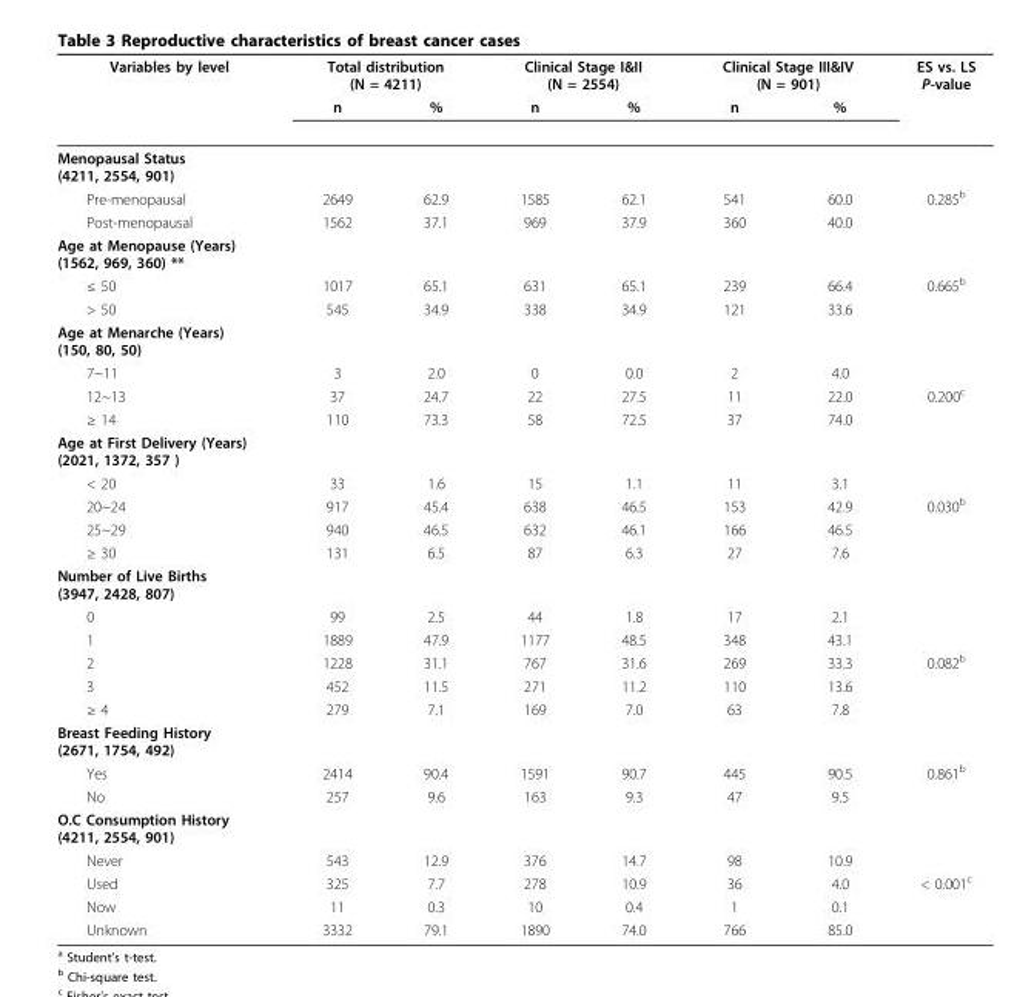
<table><thead><tr><td rowspan="2">Variables by level</td><td colspan="2">Total distribution (N = 4211)</td><td colspan="2">Clinical Stage I&amp;II (N = 2554)</td><td colspan="2">Clinical Stage III&amp;IV (N = 901)</td><td rowspan="2">ES vs. LS P-value</td></tr><tr><td>n</td><td>%</td><td>n</td><td>%</td><td>n</td><td>%</td></tr></thead><tbody><tr><td colspan="8">Menopausal Status (4211, 2554, 901)</td></tr><tr><td>Pre-menopausal</td><td>2649</td><td>62.9</td><td>1585</td><td>62.1</td><td>541</td><td>60.0</td><td>0.285<sup>b</sup></td></tr><tr><td>Post-menopausal</td><td>1562</td><td>37.1</td><td>969</td><td>37.9</td><td>360</td><td>40.0</td><td></td></tr><tr><td colspan="8">Age at Menopause (Years) (1562, 969, 360) **</td></tr><tr><td>≤ 50</td><td>1017</td><td>65.1</td><td>631</td><td>65.1</td><td>239</td><td>66.4</td><td>0.665<sup>b</sup></td></tr><tr><td>&gt; 50</td><td>545</td><td>34.9</td><td>338</td><td>34.9</td><td>121</td><td>33.6</td><td></td></tr><tr><td colspan="8">Age at Menarche (Years) (150, 80, 50)</td></tr><tr><td>7~11</td><td>3</td><td>2.0</td><td>0</td><td>0.0</td><td>2</td><td>4.0</td><td></td></tr><tr><td>12~13</td><td>37</td><td>24.7</td><td>22</td><td>27.5</td><td>11</td><td>22.0</td><td>0.200<sup>c</sup></td></tr><tr><td>≥ 14</td><td>110</td><td>73.3</td><td>58</td><td>72.5</td><td>37</td><td>74.0</td><td></td></tr><tr><td colspan="8">Age at First Delivery (Years) (2021, 1372, 357 )</td></tr><tr><td>&lt; 20</td><td>33</td><td>1.6</td><td>15</td><td>1.1</td><td>11</td><td>3.1</td><td></td></tr><tr><td>20~24</td><td>917</td><td>45.4</td><td>638</td><td>46.5</td><td>153</td><td>42.9</td><td>0.030<sup>b</sup></td></tr><tr><td>25~29</td><td>940</td><td>46.5</td><td>632</td><td>46.1</td><td>166</td><td>46.5</td><td></td></tr><tr><td>≥ 30</td><td>131</td><td>6.5</td><td>87</td><td>6.3</td><td>27</td><td>7.6</td><td></td></tr><tr><td colspan="8">Number of Live Births (3947, 2428, 807)</td></tr><tr><td>0</td><td>99</td><td>2.5</td><td>44</td><td>1.8</td><td>17</td><td>2.1</td><td></td></tr><tr><td>1</td><td>1889</td><td>47.9</td><td>1177</td><td>48.5</td><td>348</td><td>43.1</td><td></td></tr><tr><td>2</td><td>1228</td><td>31.1</td><td>767</td><td>31.6</td><td>269</td><td>33.3</td><td>0.082<sup>b</sup></td></tr><tr><td>3</td><td>452</td><td>11.5</td><td>271</td><td>11.2</td><td>110</td><td>13.6</td><td></td></tr><tr><td>≥ 4</td><td>279</td><td>7.1</td><td>169</td><td>7.0</td><td>63</td><td>7.8</td><td></td></tr><tr><td colspan="8">Breast Feeding History (2671, 1754, 492)</td></tr><tr><td>Yes</td><td>2414</td><td>90.4</td><td>1591</td><td>90.7</td><td>445</td><td>90.5</td><td>0.861<sup>b</sup></td></tr><tr><td>No</td><td>257</td><td>9.6</td><td>163</td><td>9.3</td><td>47</td><td>9.5</td><td></td></tr><tr><td colspan="8">O.C Consumption History (4211, 2554, 901)</td></tr><tr><td>Never</td><td>543</td><td>12.9</td><td>376</td><td>14.7</td><td>98</td><td>10.9</td><td></td></tr><tr><td>Used</td><td>325</td><td>7.7</td><td>278</td><td>10.9</td><td>36</td><td>4.0</td><td>&lt; 0.001<sup>c</sup></td></tr><tr><td>Now</td><td>11</td><td>0.3</td><td>10</td><td>0.4</td><td>1</td><td>0.1</td><td></td></tr><tr><td>Unknown</td><td>3332</td><td>79.1</td><td>1890</td><td>74.0</td><td>766</td><td>85.0</td><td></td></tr></tbody></table>